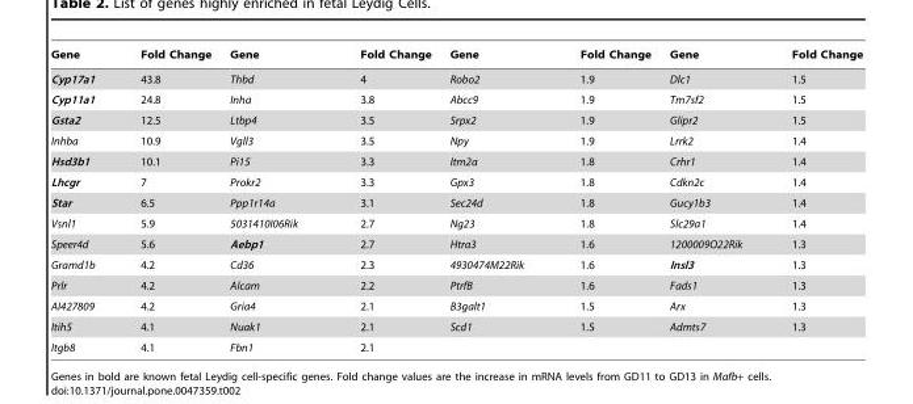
<table><thead><tr><td>Gene</td><td>Fold Change</td><td>Gene</td><td>Fold Change</td><td>Gene</td><td>Fold Change</td><td>Gene</td><td>Fold Change</td></tr></thead><tbody><tr><td>Cyp17a1</td><td>43.8</td><td>Thbd</td><td>4</td><td>Robo2</td><td>1.9</td><td>Dlc1</td><td>1.5</td></tr><tr><td>Cyp11a1</td><td>24.8</td><td>Inha</td><td>3.8</td><td>Abcc9</td><td>1.9</td><td>Tm7sf2</td><td>1.5</td></tr><tr><td>Gsta2</td><td>12.5</td><td>Ltbp4</td><td>3.5</td><td>Srpx2</td><td>1.9</td><td>Glipr2</td><td>1.5</td></tr><tr><td>Inhba</td><td>10.9</td><td>Vgll3</td><td>3.5</td><td>Npy</td><td>1.9</td><td>Lrrk2</td><td>1.4</td></tr><tr><td>Hsd3b1</td><td>10.1</td><td>Pi15</td><td>3.3</td><td>Itm2a</td><td>1.8</td><td>Crhr1</td><td>1.4</td></tr><tr><td>Lhcgr</td><td>7</td><td>Prokr2</td><td>3.3</td><td>Gpx3</td><td>1.8</td><td>Cdkn2c</td><td>1.4</td></tr><tr><td>Star</td><td>6.5</td><td>Ppp1r14a</td><td>3.1</td><td>Sec24d</td><td>1.8</td><td>Gucy1b3</td><td>1.4</td></tr><tr><td>Vsnl1</td><td>5.9</td><td>5031410I06Rik</td><td>2.7</td><td>Ng23</td><td>1.8</td><td>Slc29a1</td><td>1.4</td></tr><tr><td>Speer4d</td><td>5.6</td><td>Aebp1</td><td>2.7</td><td>Htra3</td><td>1.6</td><td>1200009O22Rik</td><td>1.3</td></tr><tr><td>Gramd1b</td><td>4.2</td><td>Cd36</td><td>2.3</td><td>4930474M22Rik</td><td>1.6</td><td>Insl3</td><td>1.3</td></tr><tr><td>Prlr</td><td>4.2</td><td>Alcam</td><td>2.2</td><td>PtrfB</td><td>1.6</td><td>Fads1</td><td>1.3</td></tr><tr><td>AI427809</td><td>4.2</td><td>Gria4</td><td>2.1</td><td>B3galt1</td><td>1.5</td><td>Arx</td><td>1.3</td></tr><tr><td>Itih5</td><td>4.1</td><td>Nuak1</td><td>2.1</td><td>Scd1</td><td>1.5</td><td>Admts7</td><td>1.3</td></tr><tr><td>Itgb8</td><td>4.1</td><td>Fbn1</td><td>2.1</td><td></td><td></td><td></td><td></td></tr></tbody></table>